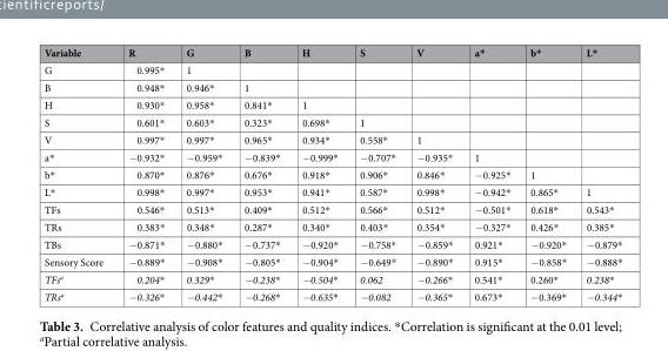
<table><thead><tr><td>Variable</td><td>R</td><td>G</td><td>B</td><td>H</td><td>S</td><td>V</td><td>a*</td><td>b*</td><td>L*</td></tr></thead><tbody><tr><td>G</td><td>0.995*</td><td>1</td><td></td><td></td><td></td><td></td><td></td><td></td><td></td></tr><tr><td>B</td><td>0.948*</td><td>0.946*</td><td>1</td><td></td><td></td><td></td><td></td><td></td><td></td></tr><tr><td>H</td><td>0.930*</td><td>0.958*</td><td>0.841*</td><td>1</td><td></td><td></td><td></td><td></td><td></td></tr><tr><td>S</td><td>0.601*</td><td>0.603*</td><td>0.323*</td><td>0.698*</td><td>1</td><td></td><td></td><td></td><td></td></tr><tr><td>V</td><td>0.997*</td><td>0.997*</td><td>0.965*</td><td>0.934*</td><td>0.558*</td><td>1</td><td></td><td></td><td></td></tr><tr><td>a*</td><td>−0.932*</td><td>−0.959*</td><td>−0.839*</td><td>−0.999*</td><td>−0.707*</td><td>−0.935*</td><td>1</td><td></td><td></td></tr><tr><td>b*</td><td>0.870*</td><td>0.876*</td><td>0.676*</td><td>0.918*</td><td>0.906*</td><td>0.846*</td><td>−0.925*</td><td>1</td><td></td></tr><tr><td>L*</td><td>0.998*</td><td>0.997*</td><td>0.953*</td><td>0.941*</td><td>0.587*</td><td>0.998*</td><td>−0.942*</td><td>0.865*</td><td>1</td></tr><tr><td>TFs</td><td>0.546*</td><td>0.513*</td><td>0.409*</td><td>0.512*</td><td>0.566*</td><td>0.512*</td><td>−0.501*</td><td>0.618*</td><td>0.543*</td></tr><tr><td>TRs</td><td>0.383*</td><td>0.348*</td><td>0.287*</td><td>0.340*</td><td>0.403*</td><td>0.354*</td><td>−0.327*</td><td>0.426*</td><td>0.385*</td></tr><tr><td>TBs</td><td>−0.871*</td><td>−0.880*</td><td>−0.737*</td><td>−0.920*</td><td>−0.758*</td><td>−0.859*</td><td>0.921*</td><td>−0.920*</td><td>−0.879*</td></tr><tr><td>Sensory Score</td><td>−0.889*</td><td>−0.908*</td><td>−0.805*</td><td>−0.904*</td><td>−0.649*</td><td>−0.890*</td><td>0.915*</td><td>−0.858*</td><td>−0.888*</td></tr><tr><td>TFs<sup>a</sup></td><td>0.204*</td><td>0.329*</td><td>−0.238*</td><td>−0.504*</td><td>0.062</td><td>−0.266*</td><td>0.541*</td><td>0.260*</td><td>0.238*</td></tr><tr><td>TRs<sup>a</sup></td><td>−0.326*</td><td>−0.442*</td><td>−0.268*</td><td>−0.635*</td><td>−0.082</td><td>−0.365*</td><td>0.673*</td><td>−0.369*</td><td>−0.344*</td></tr></tbody></table>